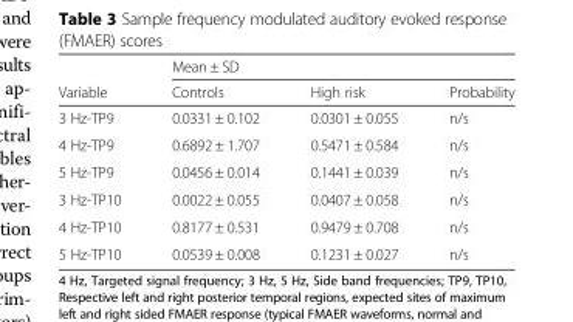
<table><thead><tr><td rowspan="2">Variable</td><td colspan="3">Mean ± SD</td></tr><tr><td>Controls</td><td>High risk</td><td>Probability</td></tr></thead><tbody><tr><td>3 Hz-TP9</td><td>0.0331 ± 0.102</td><td>0.0301 ± 0.055</td><td>n/s</td></tr><tr><td>4 Hz-TP9</td><td>0.6892 ± 1.707</td><td>0.5471 ± 0.584</td><td>n/s</td></tr><tr><td>5 Hz-TP9</td><td>0.0456 ± 0.014</td><td>0.1441 ± 0.039</td><td>n/s</td></tr><tr><td>3 Hz-TP10</td><td>0.0022 ± 0.055</td><td>0.0407 ± 0.058</td><td>n/s</td></tr><tr><td>4 Hz-TP10</td><td>0.8177 ± 0.531</td><td>0.9479 ± 0.708</td><td>n/s</td></tr><tr><td>5 Hz-TP10</td><td>0.0539 ± 0.008</td><td>0.1231 ± 0.027</td><td>n/s</td></tr></tbody></table>